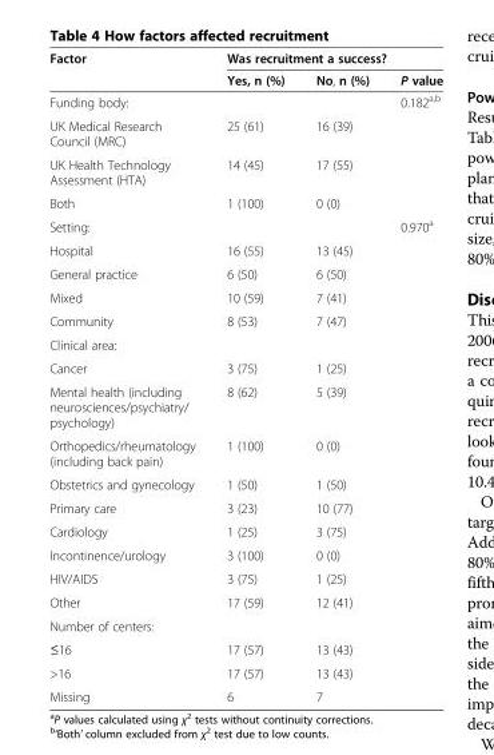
<table><thead><tr><td rowspan="2">Factor</td><td colspan="3">Was recruitment a success?</td></tr><tr><td>Yes, n (%)</td><td>No, n (%)</td><td>P value</td></tr></thead><tbody><tr><td colspan="3">Funding body:</td><td rowspan="4">0.182<sup>a,b</sup></td></tr><tr><td>UK Medical Research Council (MRC)</td><td>25 (61)</td><td>16 (39)</td></tr><tr><td>UK Health Technology Assessment (HTA)</td><td>14 (45)</td><td>17 (55)</td></tr><tr><td>Both</td><td>1 (100)</td><td>0 (0)</td></tr><tr><td colspan="3">Setting:</td><td rowspan="5">0.970<sup>a</sup></td></tr><tr><td>Hospital</td><td>16 (55)</td><td>13 (45)</td></tr><tr><td>General practice</td><td>6 (50)</td><td>6 (50)</td></tr><tr><td>Mixed</td><td>10 (59)</td><td>7 (41)</td></tr><tr><td>Community</td><td>8 (53)</td><td>7 (47)</td></tr><tr><td colspan="4">Clinical area:</td></tr><tr><td>Cancer</td><td>3 (75)</td><td>1 (25)</td><td></td></tr><tr><td>Mental health (including neurosciences/psychiatry/ psychology)</td><td>8 (62)</td><td>5 (39)</td><td></td></tr><tr><td>Orthopedics/rheumatology (including back pain)</td><td>1 (100)</td><td>0 (0)</td><td></td></tr><tr><td>Obstetrics and gynecology</td><td>1 (50)</td><td>1 (50)</td><td></td></tr><tr><td>Primary care</td><td>3 (23)</td><td>10 (77)</td><td></td></tr><tr><td>Cardiology</td><td>1 (25)</td><td>3 (75)</td><td></td></tr><tr><td>Incontinence/urology</td><td>3 (100)</td><td>0 (0)</td><td></td></tr><tr><td>HIV/AIDS</td><td>3 (75)</td><td>1 (25)</td><td></td></tr><tr><td>Other</td><td>17 (59)</td><td>12 (41)</td><td></td></tr><tr><td colspan="4">Number of centers:</td></tr><tr><td>≤16</td><td>17 (57)</td><td>13 (43)</td><td></td></tr><tr><td>&gt;16</td><td>17 (57)</td><td>13 (43)</td><td></td></tr><tr><td>Missing</td><td>6</td><td>7</td><td></td></tr></tbody></table>